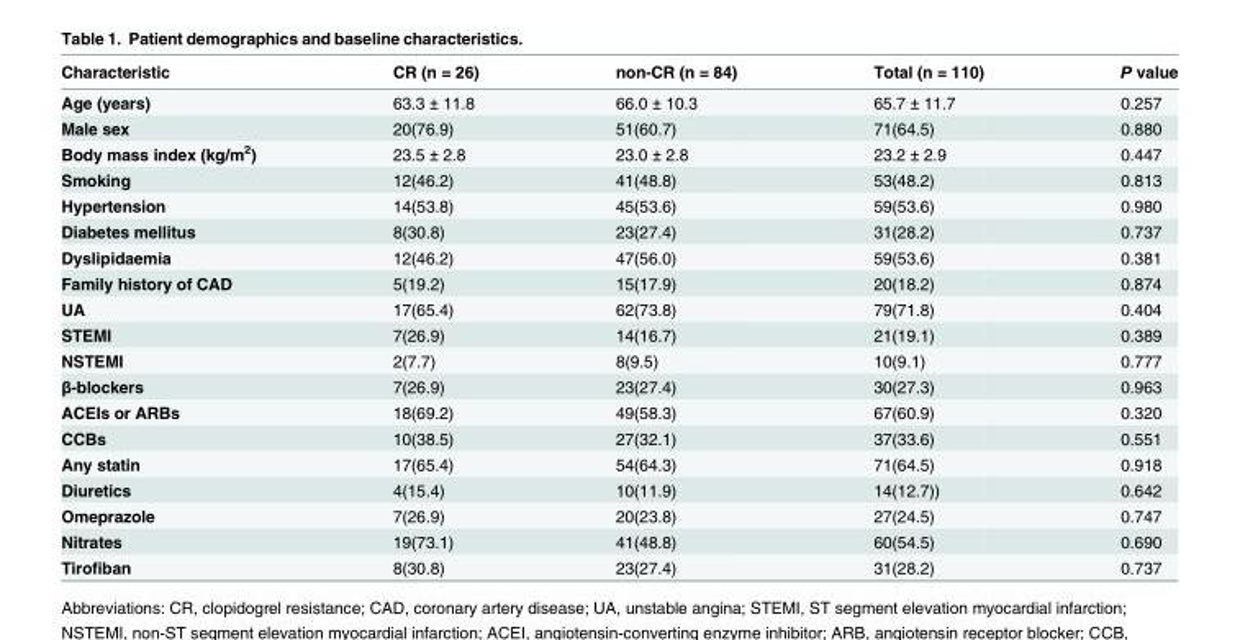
<table><thead><tr><td>Characteristic</td><td>CR (n = 26)</td><td>non-CR (n = 84)</td><td>Total (n = 110)</td><td>P value</td></tr></thead><tbody><tr><td>Age (years)</td><td>63.3 ± 11.8</td><td>66.0 ± 10.3</td><td>65.7 ± 11.7</td><td>0.257</td></tr><tr><td>Male sex</td><td>20(76.9)</td><td>51(60.7)</td><td>71(64.5)</td><td>0.880</td></tr><tr><td>Body mass index (kg/m<sup>2</sup>)</td><td>23.5 ± 2.8</td><td>23.0 ± 2.8</td><td>23.2 ± 2.9</td><td>0.447</td></tr><tr><td>Smoking</td><td>12(46.2)</td><td>41(48.8)</td><td>53(48.2)</td><td>0.813</td></tr><tr><td>Hypertension</td><td>14(53.8)</td><td>45(53.6)</td><td>59(53.6)</td><td>0.980</td></tr><tr><td>Diabetes mellitus</td><td>8(30.8)</td><td>23(27.4)</td><td>31(28.2)</td><td>0.737</td></tr><tr><td>Dyslipidaemia</td><td>12(46.2)</td><td>47(56.0)</td><td>59(53.6)</td><td>0.381</td></tr><tr><td>Family history of CAD</td><td>5(19.2)</td><td>15(17.9)</td><td>20(18.2)</td><td>0.874</td></tr><tr><td>UA</td><td>17(65.4)</td><td>62(73.8)</td><td>79(71.8)</td><td>0.404</td></tr><tr><td>STEMI</td><td>7(26.9)</td><td>14(16.7)</td><td>21(19.1)</td><td>0.389</td></tr><tr><td>NSTEMI</td><td>2(7.7)</td><td>8(9.5)</td><td>10(9.1)</td><td>0.777</td></tr><tr><td>β-blockers</td><td>7(26.9)</td><td>23(27.4)</td><td>30(27.3)</td><td>0.963</td></tr><tr><td>ACEIs or ARBs</td><td>18(69.2)</td><td>49(58.3)</td><td>67(60.9)</td><td>0.320</td></tr><tr><td>CCBs</td><td>10(38.5)</td><td>27(32.1)</td><td>37(33.6)</td><td>0.551</td></tr><tr><td>Any statin</td><td>17(65.4)</td><td>54(64.3)</td><td>71(64.5)</td><td>0.918</td></tr><tr><td>Diuretics</td><td>4(15.4)</td><td>10(11.9)</td><td>14(12.7))</td><td>0.642</td></tr><tr><td>Omeprazole</td><td>7(26.9)</td><td>20(23.8)</td><td>27(24.5)</td><td>0.747</td></tr><tr><td>Nitrates</td><td>19(73.1)</td><td>41(48.8)</td><td>60(54.5)</td><td>0.690</td></tr><tr><td>Tirofiban</td><td>8(30.8)</td><td>23(27.4)</td><td>31(28.2)</td><td>0.737</td></tr></tbody></table>